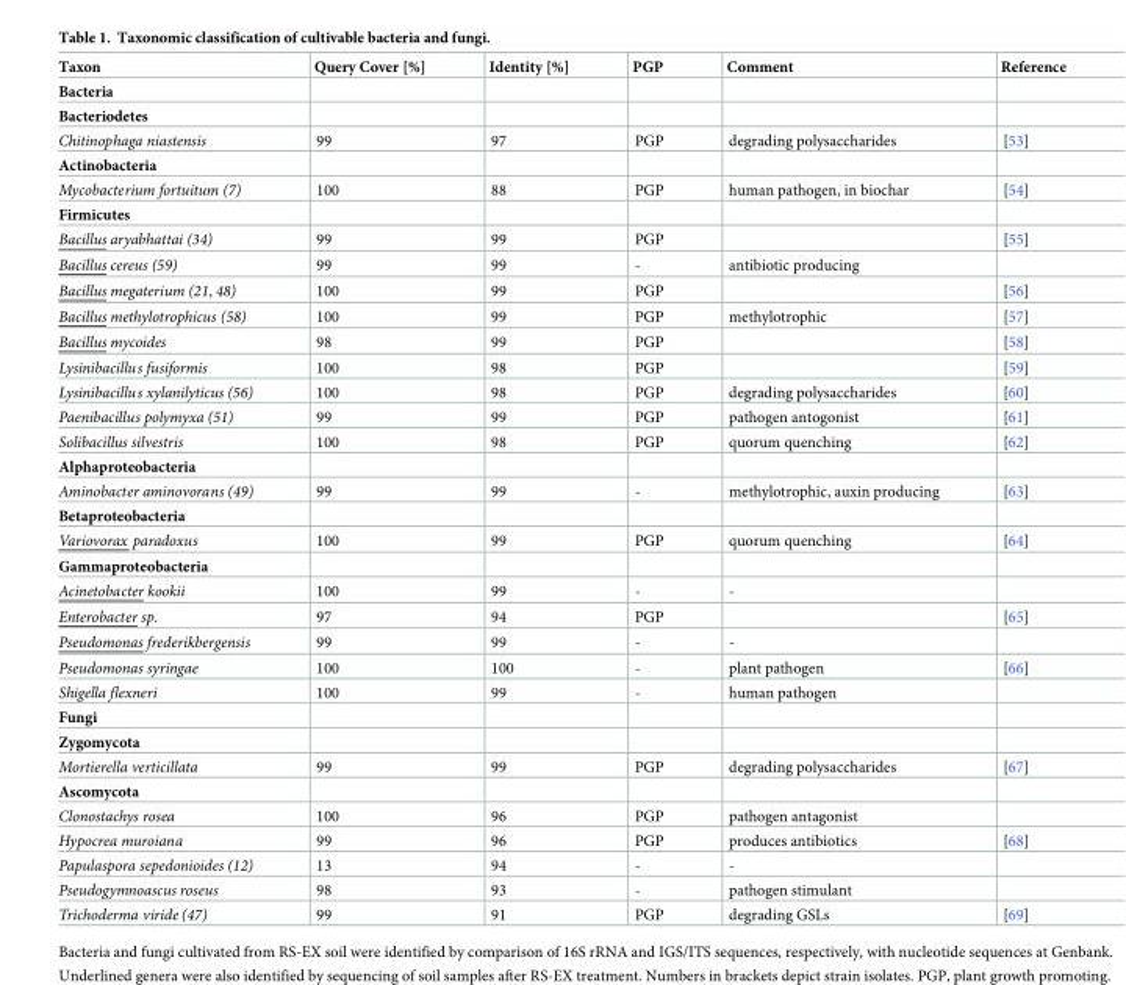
<table><thead><tr><td>Taxon</td><td>Query Cover [%]</td><td>Identity [%]</td><td>PGP</td><td>Comment</td><td>Reference</td></tr></thead><tbody><tr><td colspan="6">Bacteria</td></tr><tr><td colspan="6">Bacteriodetes</td></tr><tr><td>Chitinophaga niastensis</td><td>99</td><td>97</td><td>PGP</td><td>degrading polysaccharides</td><td>[53]</td></tr><tr><td colspan="6">Actinobacteria</td></tr><tr><td>Mycobacterium fortuitum (7)</td><td>100</td><td>88</td><td>PGP</td><td>human pathogen, in biochar</td><td>[54]</td></tr><tr><td colspan="6">Firmicutes</td></tr><tr><td>Bacillus aryabhattai (34)</td><td>99</td><td>99</td><td>PGP</td><td></td><td>[55]</td></tr><tr><td>Bacillus cereus (59)</td><td>99</td><td>99</td><td>-</td><td>antibiotic producing</td><td></td></tr><tr><td>Bacillus megaterium (21, 48)</td><td>100</td><td>99</td><td>PGP</td><td></td><td>[56]</td></tr><tr><td>Bacillus methylotrophicus (58)</td><td>100</td><td>99</td><td>PGP</td><td>methylotrophic</td><td>[57]</td></tr><tr><td>Bacillus mycoides</td><td>98</td><td>99</td><td>PGP</td><td></td><td>[58]</td></tr><tr><td>Lysinibacillus fusiformis</td><td>100</td><td>98</td><td>PGP</td><td></td><td>[59]</td></tr><tr><td>Lysinibacillus xylanilyticus (56)</td><td>100</td><td>98</td><td>PGP</td><td>degrading polysaccharides</td><td>[60]</td></tr><tr><td>Paenibacillus polymyxa (51)</td><td>99</td><td>99</td><td>PGP</td><td>pathogen antogonist</td><td>[61]</td></tr><tr><td>Solibacillus silvestris</td><td>100</td><td>98</td><td>PGP</td><td>quorum quenching</td><td>[62]</td></tr><tr><td colspan="6">Alphaproteobacteria</td></tr><tr><td>Aminobacter aminovorans (49)</td><td>99</td><td>99</td><td>-</td><td>methylotrophic, auxin producing</td><td>[63]</td></tr><tr><td colspan="6">Betaproteobacteria</td></tr><tr><td>Variovorax paradoxus</td><td>100</td><td>99</td><td>PGP</td><td>quorum quenching</td><td>[64]</td></tr><tr><td colspan="6">Gammaproteobacteria</td></tr><tr><td>Acinetobacter kookii</td><td>100</td><td>99</td><td>-</td><td>-</td><td></td></tr><tr><td>Enterobacter sp.</td><td>97</td><td>94</td><td>PGP</td><td></td><td>[65]</td></tr><tr><td>Pseudomonas frederikbergensis</td><td>99</td><td>99</td><td>-</td><td>-</td><td></td></tr><tr><td>Pseudomonas syringae</td><td>100</td><td>100</td><td>-</td><td>plant pathogen</td><td>[66]</td></tr><tr><td>Shigella flexneri</td><td>100</td><td>99</td><td>-</td><td>human pathogen</td><td></td></tr><tr><td colspan="6">Fungi</td></tr><tr><td colspan="6">Zygomycota</td></tr><tr><td>Mortierella verticillata</td><td>99</td><td>99</td><td>PGP</td><td>degrading polysaccharides</td><td>[67]</td></tr><tr><td colspan="6">Ascomycota</td></tr><tr><td>Clonostachys rosea</td><td>100</td><td>96</td><td>PGP</td><td>pathogen antagonist</td><td></td></tr><tr><td>Hypocrea muroiana</td><td>99</td><td>96</td><td>PGP</td><td>produces antibiotics</td><td>[68]</td></tr><tr><td>Papulaspora sepedonioides (12)</td><td>13</td><td>94</td><td>-</td><td>-</td><td></td></tr><tr><td>Pseudogymnoascus roseus</td><td>98</td><td>93</td><td>-</td><td>pathogen stimulant</td><td></td></tr><tr><td>Trichoderma viride (47)</td><td>99</td><td>91</td><td>PGP</td><td>degrading GSLs</td><td>[69]</td></tr></tbody></table>